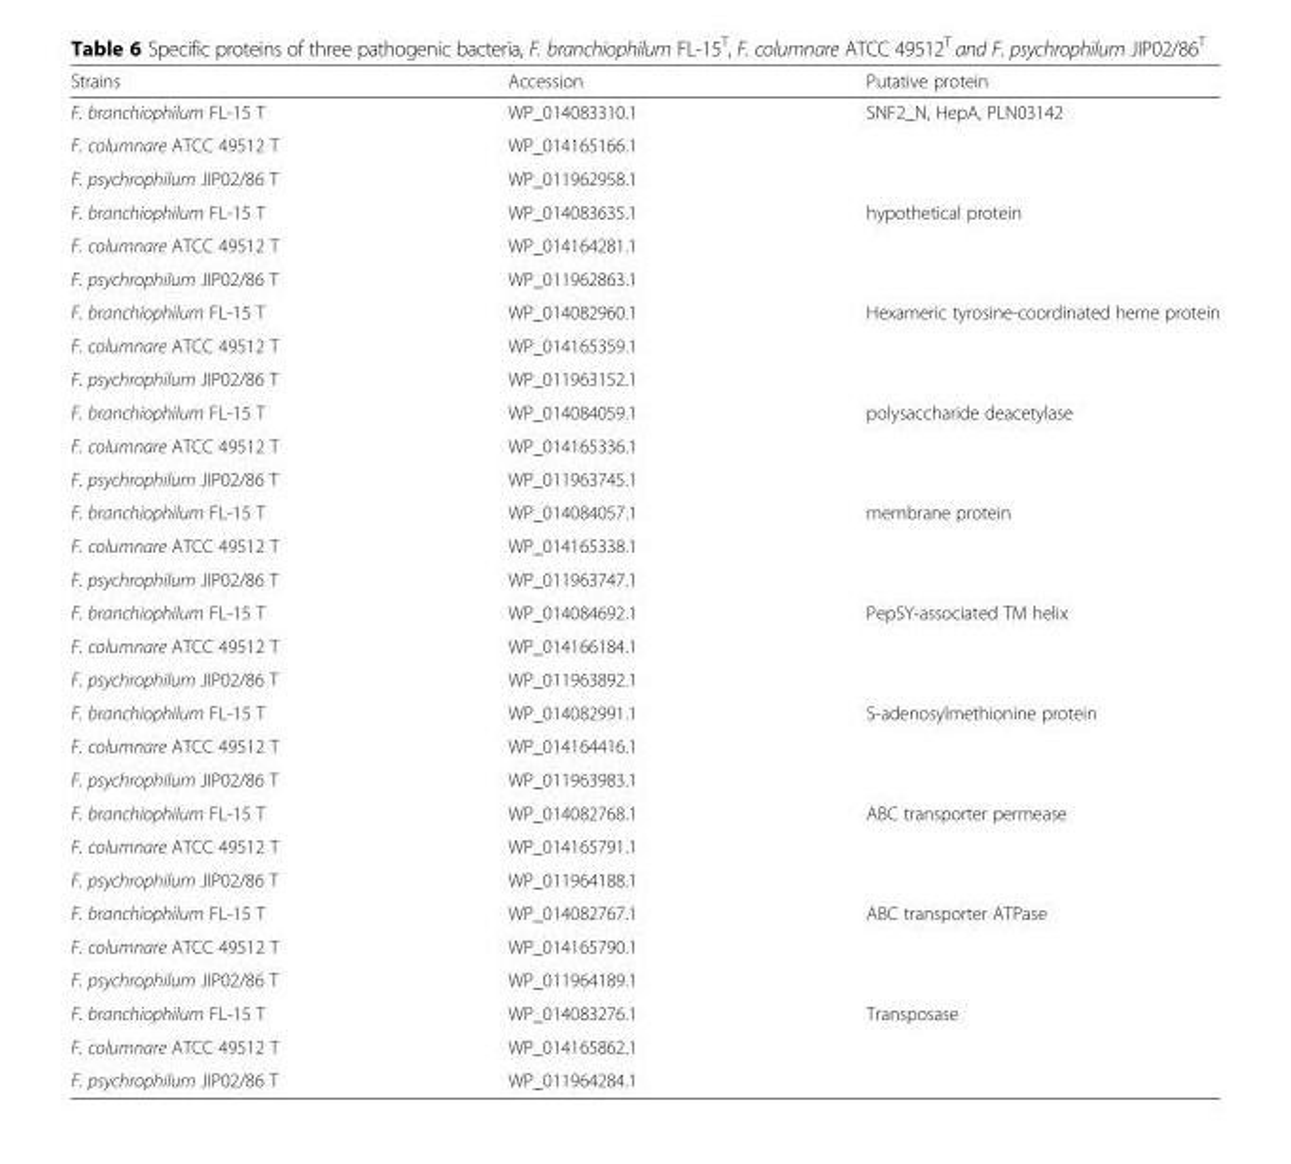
<table><thead><tr><td>Strains</td><td>Accession</td><td>Putative protein</td></tr></thead><tbody><tr><td>F. branchiophilum FL-15 T</td><td>WP_014083310.1</td><td rowspan="3">SNF2_N, HepA, PLN03142</td></tr><tr><td>F. columnare ATCC 49512 T</td><td>WP_014165166.1</td></tr><tr><td>F. psychrophilum JIP02/86 T</td><td>WP_011962958.1</td></tr><tr><td>F. branchiophilum FL-15 T</td><td>WP_014083635.1</td><td rowspan="3">hypothetical protein</td></tr><tr><td>F. columnare ATCC 49512 T</td><td>WP_014164281.1</td></tr><tr><td>F. psychrophilum JIP02/86 T</td><td>WP_011962863.1</td></tr><tr><td>F. branchiophilum FL-15 T</td><td>WP_014082960.1</td><td rowspan="3">Hexameric tyrosine-coordinated heme protein</td></tr><tr><td>F. columnare ATCC 49512 T</td><td>WP_014165359.1</td></tr><tr><td>F. psychrophilum JIP02/86 T</td><td>WP_011963152.1</td></tr><tr><td>F. branchiophilum FL-15 T</td><td>WP_014084059.1</td><td rowspan="3">polysaccharide deacetylase</td></tr><tr><td>F. columnare ATCC 49512 T</td><td>WP_014165336.1</td></tr><tr><td>F. psychrophilum JIP02/86 T</td><td>WP_011963745.1</td></tr><tr><td>F. branchiophilum FL-15 T</td><td>WP_014084057.1</td><td rowspan="3">membrane protein</td></tr><tr><td>F. columnare ATCC 49512 T</td><td>WP_014165338.1</td></tr><tr><td>F. psychrophilum JIP02/86 T</td><td>WP_011963747.1</td></tr><tr><td>F. branchiophilum FL-15 T</td><td>WP_014084692.1</td><td rowspan="3">PepSY-associated TM helix</td></tr><tr><td>F. columnare ATCC 49512 T</td><td>WP_014166184.1</td></tr><tr><td>F. psychrophilum JIP02/86 T</td><td>WP_011963892.1</td></tr><tr><td>F. branchiophilum FL-15 T</td><td>WP_014082991.1</td><td rowspan="3">S-adenosylmethionine protein</td></tr><tr><td>F. columnare ATCC 49512 T</td><td>WP_014164416.1</td></tr><tr><td>F. psychrophilum JIP02/86 T</td><td>WP_011963983.1</td></tr><tr><td>F. branchiophilum FL-15 T</td><td>WP_014082768.1</td><td rowspan="3">ABC transporter permease</td></tr><tr><td>F. columnare ATCC 49512 T</td><td>WP_014165791.1</td></tr><tr><td>F. psychrophilum JIP02/86 T</td><td>WP_011964188.1</td></tr><tr><td>F. branchiophilum FL-15 T</td><td>WP_014082767.1</td><td rowspan="3">ABC transporter ATPase</td></tr><tr><td>F. columnare ATCC 49512 T</td><td>WP_014165790.1</td></tr><tr><td>F. psychrophilum JIP02/86 T</td><td>WP_011964189.1</td></tr><tr><td>F. branchiophilum FL-15 T</td><td>WP_014083276.1</td><td rowspan="3">Transposase</td></tr><tr><td>F. columnare ATCC 49512 T</td><td>WP_014165862.1</td></tr><tr><td>F. psychrophilum JIP02/86 T</td><td>WP_011964284.1</td></tr></tbody></table>